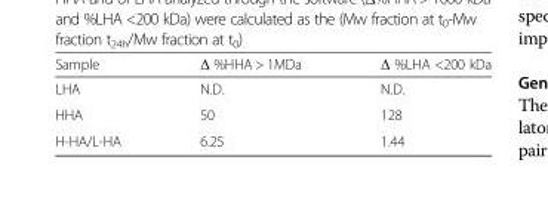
<table><thead><tr><td>Sample</td><td>Δ %HHA &gt; 1MDa</td><td>Δ %LHA &lt;200 kDa</td></tr></thead><tbody><tr><td>LHA</td><td>N.D.</td><td>N.D.</td></tr><tr><td>HHA</td><td>50</td><td>128</td></tr><tr><td>H-HA/L-HA</td><td>6.25</td><td>1.44</td></tr></tbody></table>